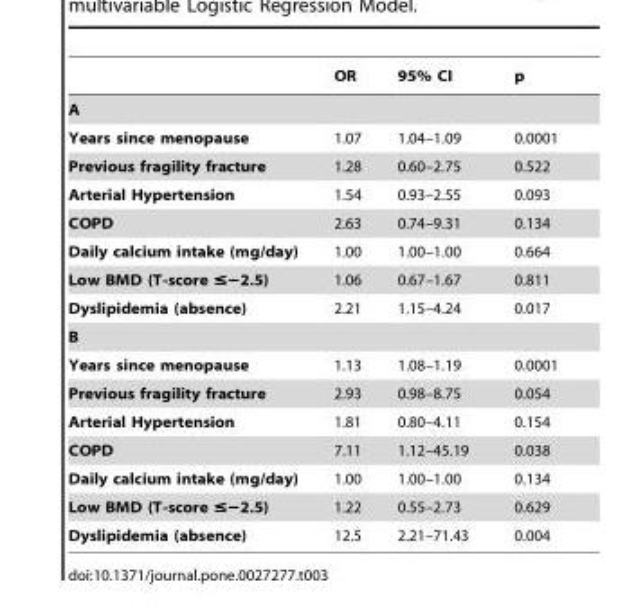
<table><thead><tr><td></td><td>OR</td><td>95% CI</td><td>p</td></tr></thead><tbody><tr><td colspan="4">A</td></tr><tr><td>Years since menopause</td><td>1.07</td><td>1.04–1.09</td><td>0.0001</td></tr><tr><td>Previous fragility fracture</td><td>1.28</td><td>0.60–2.75</td><td>0.522</td></tr><tr><td>Arterial Hypertension</td><td>1.54</td><td>0.93–2.55</td><td>0.093</td></tr><tr><td>COPD</td><td>2.63</td><td>0.74–9.31</td><td>0.134</td></tr><tr><td>Daily calcium intake (mg/day)</td><td>1.00</td><td>1.00–1.00</td><td>0.664</td></tr><tr><td>Low BMD (T-score ≤−2.5)</td><td>1.06</td><td>0.67–1.67</td><td>0.811</td></tr><tr><td>Dyslipidemia (absence)</td><td>2.21</td><td>1.15–4.24</td><td>0.017</td></tr><tr><td colspan="4">B</td></tr><tr><td>Years since menopause</td><td>1.13</td><td>1.08–1.19</td><td>0.0001</td></tr><tr><td>Previous fragility fracture</td><td>2.93</td><td>0.98–8.75</td><td>0.054</td></tr><tr><td>Arterial Hypertension</td><td>1.81</td><td>0.80–4.11</td><td>0.154</td></tr><tr><td>COPD</td><td>7.11</td><td>1.12–45.19</td><td>0.038</td></tr><tr><td>Daily calcium intake (mg/day)</td><td>1.00</td><td>1.00–1.00</td><td>0.134</td></tr><tr><td>Low BMD (T-score ≤−2.5)</td><td>1.22</td><td>0.55–2.73</td><td>0.629</td></tr><tr><td>Dyslipidemia (absence)</td><td>12.5</td><td>2.21–71.43</td><td>0.004</td></tr></tbody></table>